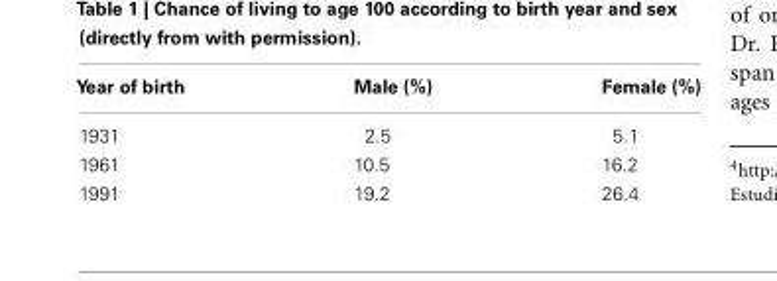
<table><thead><tr><td>Year of birth</td><td>Male (%)</td><td>Female (%)</td></tr></thead><tbody><tr><td>1931</td><td>2.5</td><td>5.1</td></tr><tr><td>1961</td><td>10.5</td><td>16.2</td></tr><tr><td>1991</td><td>19.2</td><td>26.4</td></tr></tbody></table>